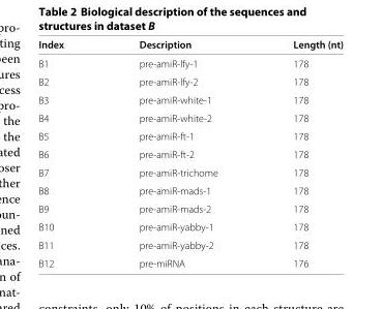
<table><thead><tr><td>Index</td><td>Description</td><td>Length (nt)</td></tr></thead><tbody><tr><td>B1</td><td>pre-amiR-lfy-1</td><td>178</td></tr><tr><td>B2</td><td>pre-amiR-lfy-2</td><td>178</td></tr><tr><td>B3</td><td>pre-amiR-white-1</td><td>178</td></tr><tr><td>B4</td><td>pre-amiR-white-2</td><td>178</td></tr><tr><td>B5</td><td>pre-amiR-ft-1</td><td>178</td></tr><tr><td>B6</td><td>pre-amiR-ft-2</td><td>178</td></tr><tr><td>B7</td><td>pre-amiR-trichome</td><td>178</td></tr><tr><td>B8</td><td>pre-amiR-mads-1</td><td>178</td></tr><tr><td>B9</td><td>pre-amiR-mads-2</td><td>178</td></tr><tr><td>B10</td><td>pre-amiR-yabby-1</td><td>178</td></tr><tr><td>B11</td><td>pre-amiR-yabby-2</td><td>178</td></tr><tr><td>B12</td><td>pre-miRNA</td><td>176</td></tr></tbody></table>